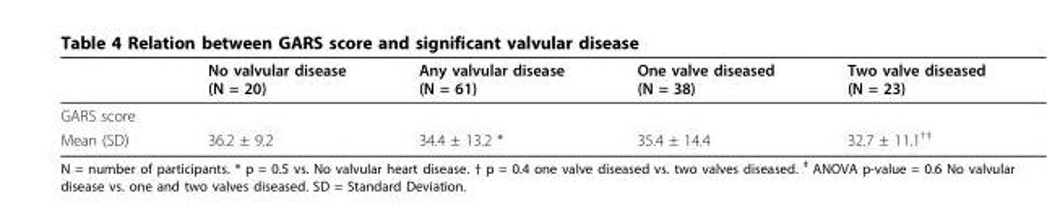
<table><thead><tr><td></td><td>No valvular disease (N = 20)</td><td>Any valvular disease (N = 61)</td><td>One valve diseased (N = 38)</td><td>Two valve diseased (N = 23)</td></tr></thead><tbody><tr><td colspan="5">GARS score</td></tr><tr><td>Mean (SD)</td><td>36.2 ± 9.2</td><td>34.4 ± 13.2 *</td><td>35.4 ± 14.4</td><td>32.7 ± 11.1<sup>†‡</sup></td></tr></tbody></table>